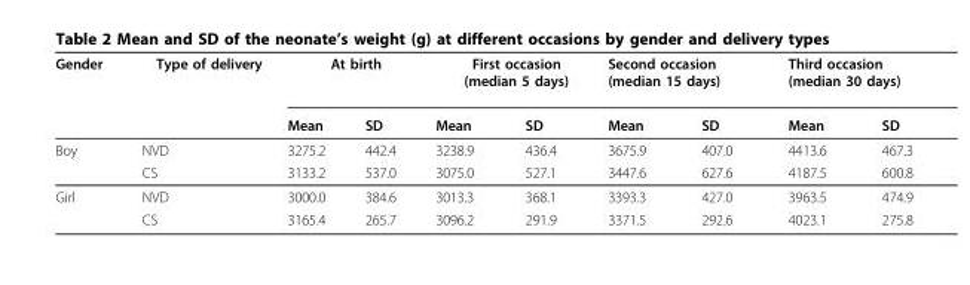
<table><thead><tr><td rowspan="2">Gender</td><td rowspan="2">Type of delivery</td><td colspan="2">At birth</td><td colspan="2">First occasion (median 5 days)</td><td colspan="2">Second occasion (median 15 days)</td><td colspan="2">Third occasion (median 30 days)</td></tr><tr><td>Mean</td><td>SD</td><td>Mean</td><td>SD</td><td>Mean</td><td>SD</td><td>Mean</td><td>SD</td></tr></thead><tbody><tr><td rowspan="2">Boy</td><td>NVD</td><td>3275.2</td><td>442.4</td><td>3238.9</td><td>436.4</td><td>3675.9</td><td>407.0</td><td>4413.6</td><td>467.3</td></tr><tr><td>CS</td><td>3133.2</td><td>537.0</td><td>3075.0</td><td>527.1</td><td>3447.6</td><td>627.6</td><td>4187.5</td><td>600.8</td></tr><tr><td rowspan="2">Girl</td><td>NVD</td><td>3000.0</td><td>384.6</td><td>3013.3</td><td>368.1</td><td>3393.3</td><td>427.0</td><td>3963.5</td><td>474.9</td></tr><tr><td>CS</td><td>3165.4</td><td>265.7</td><td>3096.2</td><td>291.9</td><td>3371.5</td><td>292.6</td><td>4023.1</td><td>275.8</td></tr></tbody></table>